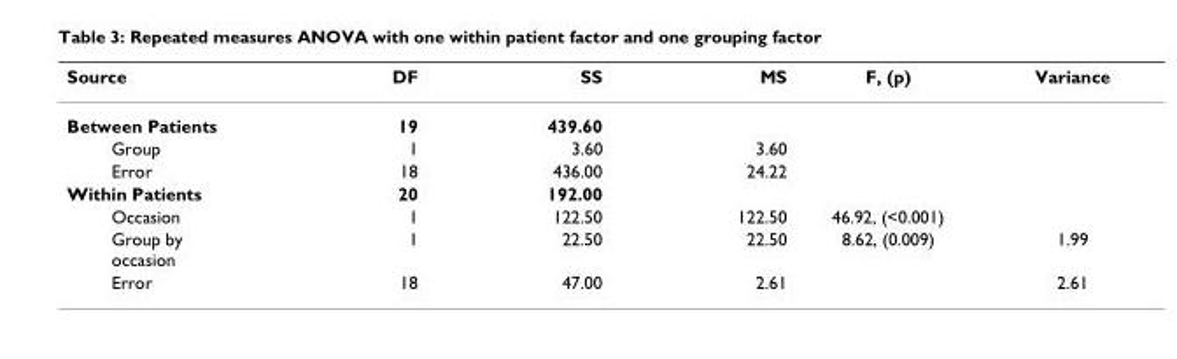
<table><thead><tr><td>Source</td><td>DF</td><td>SS</td><td>MS</td><td>F, (p)</td><td>Variance</td></tr></thead><tbody><tr><td>Between Patients</td><td>19</td><td>439.60</td><td></td><td></td><td></td></tr><tr><td>Group</td><td>1</td><td>3.60</td><td>3.60</td><td></td><td></td></tr><tr><td>Error</td><td>18</td><td>436.00</td><td>24.22</td><td></td><td></td></tr><tr><td>Within Patients</td><td>20</td><td>192.00</td><td></td><td></td><td></td></tr><tr><td>Occasion</td><td>1</td><td>122.50</td><td>122.50</td><td>46.92, (&lt;0.001)</td><td></td></tr><tr><td>Group by occasion</td><td>1</td><td>22.50</td><td>22.50</td><td>8.62, (0.009)</td><td>1.99</td></tr><tr><td>Error</td><td>18</td><td>47.00</td><td>2.61</td><td></td><td>2.61</td></tr></tbody></table>